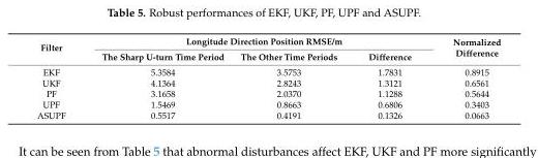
<table><thead><tr><td rowspan="2">Filter</td><td colspan="3">Longitude Direction Position RMSE/m</td><td rowspan="2">Normalized Difference</td></tr><tr><td>The Sharp U-turn Time Period</td><td>The Other Time Periods</td><td>Difference</td></tr></thead><tbody><tr><td>EKF</td><td>5.3584</td><td>3.5753</td><td>1.7831</td><td>0.8915</td></tr><tr><td>UKF</td><td>4.1364</td><td>2.8243</td><td>1.3121</td><td>0.6561</td></tr><tr><td>PF</td><td>3.1658</td><td>2.0370</td><td>1.1288</td><td>0.5644</td></tr><tr><td>UPF</td><td>1.5469</td><td>0.8663</td><td>0.6806</td><td>0.3403</td></tr><tr><td>ASUPF</td><td>0.5517</td><td>0.4191</td><td>0.1326</td><td>0.0663</td></tr></tbody></table>